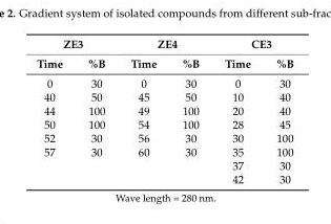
<table><thead><tr><td colspan="2">ZE3</td><td colspan="2">ZE4</td><td colspan="2">CE3</td></tr><tr><td>Time</td><td>%B</td><td>Time</td><td>%B</td><td>Time</td><td>%B</td></tr></thead><tbody><tr><td>0</td><td>30</td><td>0</td><td>30</td><td>0</td><td>30</td></tr><tr><td>40</td><td>50</td><td>45</td><td>50</td><td>10</td><td>40</td></tr><tr><td>44</td><td>100</td><td>49</td><td>100</td><td>20</td><td>40</td></tr><tr><td>50</td><td>100</td><td>54</td><td>100</td><td>28</td><td>45</td></tr><tr><td>52</td><td>30</td><td>56</td><td>30</td><td>30</td><td>100</td></tr><tr><td>57</td><td>30</td><td>60</td><td>30</td><td>35</td><td>100</td></tr><tr><td rowspan="2" colspan="4"></td><td>37</td><td>30</td></tr><tr><td>42</td><td>30</td></tr></tbody></table>